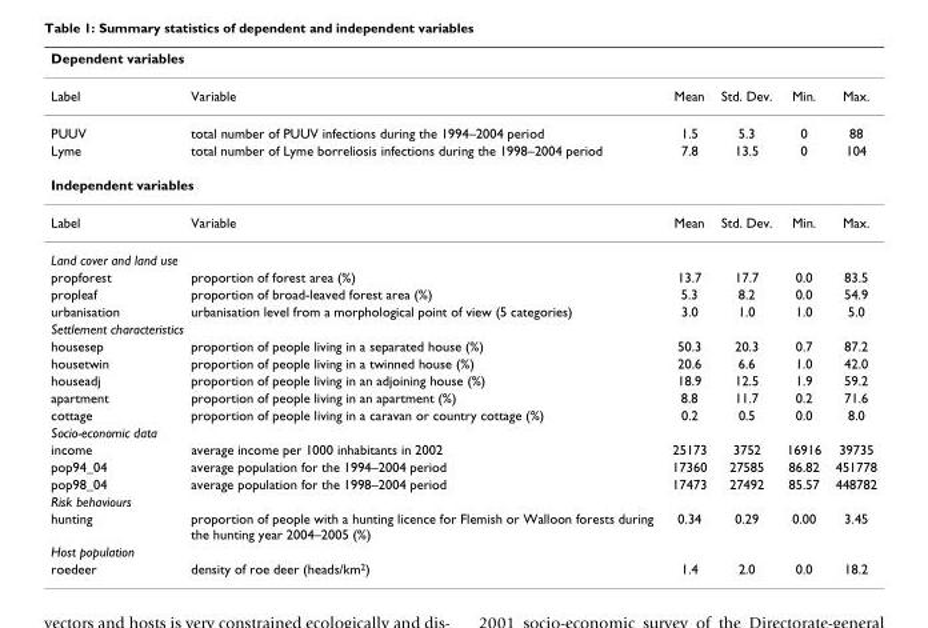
<table><thead><tr><td colspan="6">Dependent variables</td></tr><tr><td>Label</td><td>Variable</td><td>Mean</td><td>Std. Dev.</td><td>Min.</td><td>Max.</td></tr></thead><tbody><tr><td>PUUV</td><td>total number of PUUV infections during the 1994–2004 period</td><td>1.5</td><td>5.3</td><td>0</td><td>88</td></tr><tr><td>Lyme</td><td>total number of Lyme borreliosis infections during the 1998–2004 period</td><td>7.8</td><td>13.5</td><td>0</td><td>104</td></tr><tr><td colspan="6">Independent variables</td></tr><tr><td>Label</td><td>Variable</td><td>Mean</td><td>Std. Dev.</td><td>Min.</td><td>Max.</td></tr><tr><td colspan="6">Land cover and land use</td></tr><tr><td>propforest</td><td>proportion of forest area (%)</td><td>13.7</td><td>17.7</td><td>0.0</td><td>83.5</td></tr><tr><td>propleaf</td><td>proportion of broad-leaved forest area (%)</td><td>5.3</td><td>8.2</td><td>0.0</td><td>54.9</td></tr><tr><td>urbanisation</td><td>urbanisation level from a morphological point of view (5 categories)</td><td>3.0</td><td>1.0</td><td>1.0</td><td>5.0</td></tr><tr><td colspan="6">Settlement characteristics</td></tr><tr><td>housesep</td><td>proportion of people living in a separated house (%)</td><td>50.3</td><td>20.3</td><td>0.7</td><td>87.2</td></tr><tr><td>housetwin</td><td>proportion of people living in a twinned house (%)</td><td>20.6</td><td>6.6</td><td>1.0</td><td>42.0</td></tr><tr><td>houseadj</td><td>proportion of people living in an adjoining house (%)</td><td>18.9</td><td>12.5</td><td>1.9</td><td>59.2</td></tr><tr><td>apartment</td><td>proportion of people living in an apartment (%)</td><td>8.8</td><td>11.7</td><td>0.2</td><td>71.6</td></tr><tr><td>cottage</td><td>proportion of people living in a caravan or country cottage (%)</td><td>0.2</td><td>0.5</td><td>0.0</td><td>8.0</td></tr><tr><td colspan="6">Socio-economic data</td></tr><tr><td>income</td><td>average income per 1000 inhabitants in 2002</td><td>25173</td><td>3752</td><td>16916</td><td>39735</td></tr><tr><td>pop94_04</td><td>average population for the 1994–2004 period</td><td>17360</td><td>27585</td><td>86.82</td><td>451778</td></tr><tr><td>pop98_04</td><td>average population for the 1998–2004 period</td><td>17473</td><td>27492</td><td>85.57</td><td>448782</td></tr><tr><td colspan="6">Risk behaviours</td></tr><tr><td>hunting</td><td>proportion of people with a hunting licence for Flemish or Walloon forests during the hunting year 2004–2005 (%)</td><td>0.34</td><td>0.29</td><td>0.00</td><td>3.45</td></tr><tr><td colspan="6">Host population</td></tr><tr><td>roedeer</td><td>density of roe deer (heads/km<sup>2</sup>)</td><td>1.4</td><td>2.0</td><td>0.0</td><td>18.2</td></tr></tbody></table>